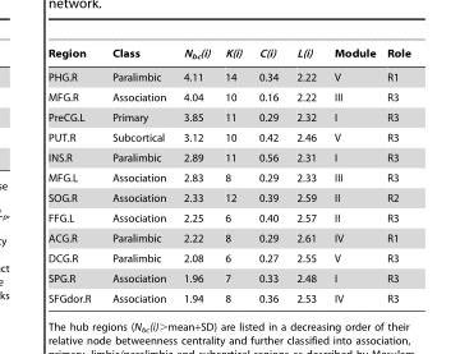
<table><thead><tr><td>Region</td><td>Class</td><td>N<sub>bc</sub>(i)</td><td>K(i)</td><td>C(i)</td><td>L(i)</td><td>Module</td><td>Role</td></tr></thead><tbody><tr><td>PHG.R</td><td>Paralimbic</td><td>4.11</td><td>14</td><td>0.34</td><td>2.22</td><td>V</td><td>R1</td></tr><tr><td>MFG.R</td><td>Association</td><td>4.04</td><td>10</td><td>0.16</td><td>2.22</td><td>III</td><td>R3</td></tr><tr><td>PreCG.L</td><td>Primary</td><td>3.85</td><td>11</td><td>0.29</td><td>2.32</td><td>I</td><td>R3</td></tr><tr><td>PUT.R</td><td>Subcortical</td><td>3.12</td><td>10</td><td>0.42</td><td>2.46</td><td>V</td><td>R3</td></tr><tr><td>INS.R</td><td>Paralimbic</td><td>2.89</td><td>11</td><td>0.56</td><td>2.31</td><td>I</td><td>R3</td></tr><tr><td>MFG.L</td><td>Association</td><td>2.83</td><td>8</td><td>0.29</td><td>2.33</td><td>III</td><td>R3</td></tr><tr><td>SOG.R</td><td>Association</td><td>2.33</td><td>12</td><td>0.39</td><td>2.59</td><td>II</td><td>R2</td></tr><tr><td>FFG.L</td><td>Association</td><td>2.25</td><td>6</td><td>0.40</td><td>2.57</td><td>II</td><td>R3</td></tr><tr><td>ACG.R</td><td>Paralimbic</td><td>2.22</td><td>8</td><td>0.29</td><td>2.61</td><td>IV</td><td>R1</td></tr><tr><td>DCG.R</td><td>Paralimbic</td><td>2.08</td><td>6</td><td>0.27</td><td>2.55</td><td>V</td><td>R3</td></tr><tr><td>SPG.R</td><td>Association</td><td>1.96</td><td>7</td><td>0.33</td><td>2.48</td><td>I</td><td>R3</td></tr><tr><td>SFGdor.R</td><td>Association</td><td>1.94</td><td>8</td><td>0.36</td><td>2.53</td><td>IV</td><td>R3</td></tr></tbody></table>